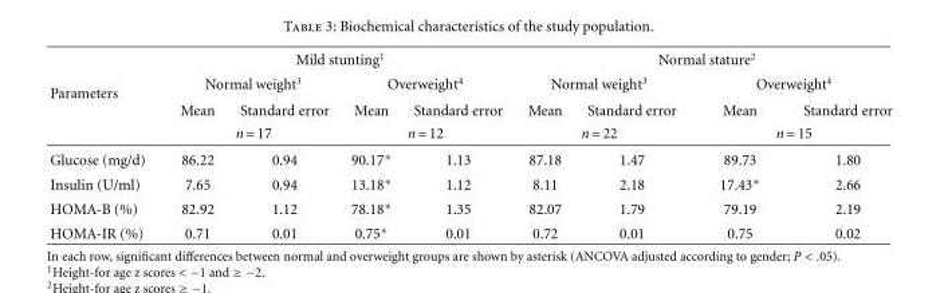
<table><thead><tr><td rowspan="4">Parameters</td><td colspan="4">Mild stunting<sup>1</sup></td><td colspan="4">Normal stature<sup>2</sup></td></tr><tr><td colspan="2">Normal weight<sup>3</sup></td><td colspan="2">Overweight<sup>4</sup></td><td colspan="2">Normal weight<sup>3</sup></td><td colspan="2">Overweight<sup>4</sup></td></tr><tr><td>Mean</td><td>Standard error</td><td>Mean</td><td>Standard error</td><td>Mean</td><td>Standard error</td><td>Mean</td><td>Standard error</td></tr><tr><td colspan="2">n = 17</td><td colspan="2">n = 12</td><td colspan="2">n = 22</td><td colspan="2">n = 15</td></tr></thead><tbody><tr><td>Glucose (mg/d)</td><td>86.22</td><td>0.94</td><td>90.17∗</td><td>1.13</td><td>87.18</td><td>1.47</td><td>89.73</td><td>1.80</td></tr><tr><td>Insulin (U/ml)</td><td>7.65</td><td>0.94</td><td>13.18∗</td><td>1.12</td><td>8.11</td><td>2.18</td><td>17.43∗</td><td>2.66</td></tr><tr><td>HOMA-B (%)</td><td>82.92</td><td>1.12</td><td>78.18∗</td><td>1.35</td><td>82.07</td><td>1.79</td><td>79.19</td><td>2.19</td></tr><tr><td>HOMA-IR (%)</td><td>0.71</td><td>0.01</td><td>0.75∗</td><td>0.01</td><td>0.72</td><td>0.01</td><td>0.75</td><td>0.02</td></tr></tbody></table>